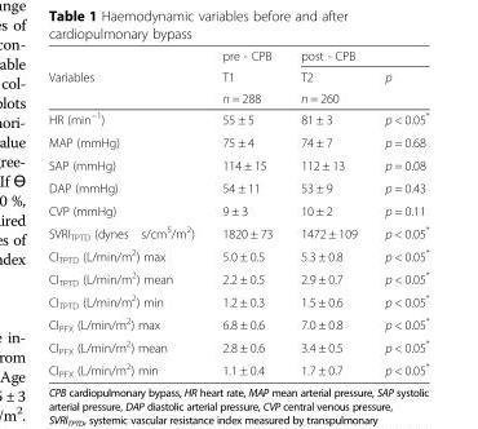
<table><thead><tr><td rowspan="3">Variables</td><td rowspan="3">pre - CPB T1 n = 288</td><td colspan="2">post - CPB</td></tr><tr><td rowspan="2">T2 n = 260</td><td rowspan="2">p</td></tr><tr></tr></thead><tbody><tr><td>HR (min<sup>−1</sup>)</td><td>55 ± 5</td><td>81 ± 3</td><td>p &lt; 0.05*</td></tr><tr><td>MAP (mmHg)</td><td>75 ± 4</td><td>74 ± 7</td><td>p = 0.68</td></tr><tr><td>SAP (mmHg)</td><td>114 ± 15</td><td>112 ± 13</td><td>p = 0.08</td></tr><tr><td>DAP (mmHg)</td><td>54 ± 11</td><td>53 ± 9</td><td>p = 0.43</td></tr><tr><td>CVP (mmHg)</td><td>9 ± 3</td><td>10 ± 2</td><td>p = 0.11</td></tr><tr><td>SVRITPTD (dynes s/cm5/m2)</td><td>1820 ± 73</td><td>1472 ± 109</td><td>p &lt; 0.05*</td></tr><tr><td>CI<sub>TPTD</sub> (L/min/m<sup>2</sup>) max</td><td>5.0 ± 0.5</td><td>5.3 ± 0.8</td><td>p &lt; 0.05*</td></tr><tr><td>CI<sub>TPTD</sub> (L/min/m<sup>2</sup>) mean</td><td>2.2 ± 0.5</td><td>2.9 ± 0.7</td><td>p &lt; 0.05*</td></tr><tr><td>CI<sub>TPTD</sub> (L/min/m<sup>2</sup>) min</td><td>1.2 ± 0.3</td><td>1.5 ± 0.6</td><td>p &lt; 0.05*</td></tr><tr><td>CI<sub>PFX</sub> (L/min/m<sup>2</sup>) max</td><td>6.8 ± 0.6</td><td>7.0 ± 0.8</td><td>p &lt; 0.05*</td></tr><tr><td>CI<sub>PFX</sub> (L/min/m<sup>2</sup>) mean</td><td>2.8 ± 0.6</td><td>3.4 ± 0.5</td><td>p &lt; 0.05*</td></tr><tr><td>CI<sub>PFX</sub> (L/min/m<sup>2</sup>) min</td><td>1.1 ± 0.4</td><td>1.7 ± 0.7</td><td>p &lt; 0.05*</td></tr></tbody></table>